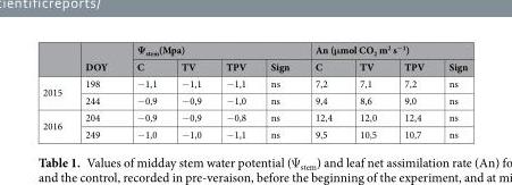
<table><thead><tr><td rowspan="2"></td><td rowspan="2">DOY</td><td colspan="4">Ψ<sub>stem</sub>(Mpa)</td><td colspan="4">An (μmol CO<sub>2</sub> m<sup>2</sup> s<sup>−1</sup>)</td></tr><tr><td>C</td><td>TV</td><td>TPV</td><td>Sign</td><td>C</td><td>TV</td><td>TPV</td><td>Sign</td></tr></thead><tbody><tr><td rowspan="2">2015</td><td>198</td><td>−1,1</td><td>−1,1</td><td>−1,1</td><td>ns</td><td>7,2</td><td>7,1</td><td>7,2</td><td>ns</td></tr><tr><td>244</td><td>−0,9</td><td>−0,9</td><td>−1,0</td><td>ns</td><td>9,4</td><td>8,6</td><td>9,0</td><td>ns</td></tr><tr><td rowspan="2">2016</td><td>204</td><td>−0,9</td><td>−0,9</td><td>−0,8</td><td>ns</td><td>12,4</td><td>12,0</td><td>12,4</td><td>ns</td></tr><tr><td>249</td><td>−1,0</td><td>−1,0</td><td>−1,1</td><td>ns</td><td>9,5</td><td>10,5</td><td>10,7</td><td>ns</td></tr></tbody></table>